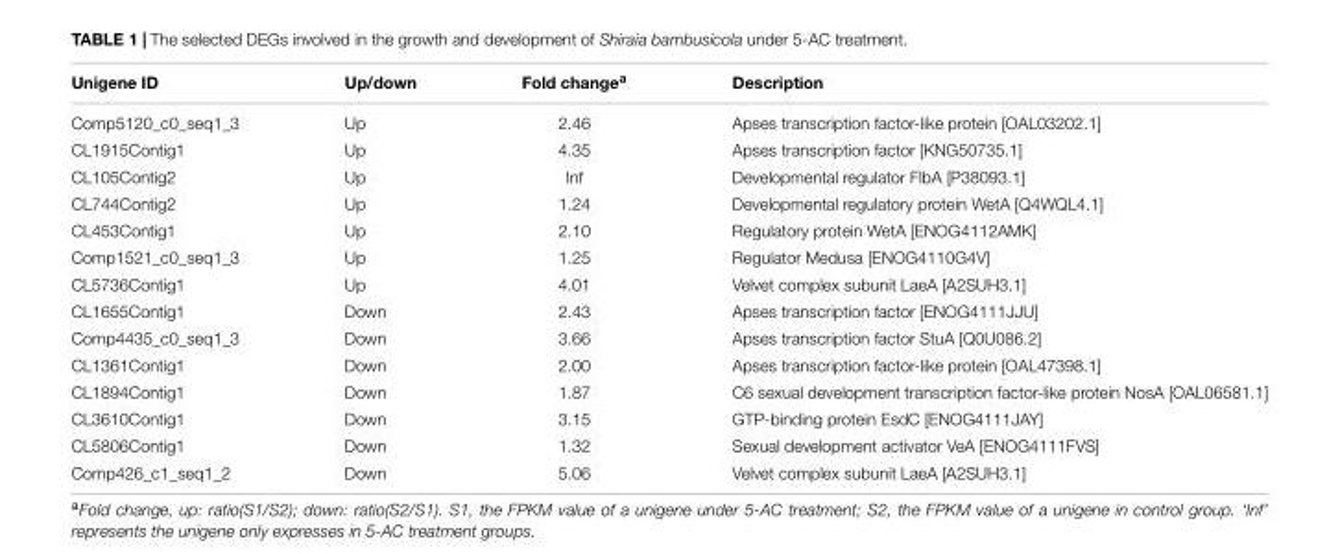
<table><thead><tr><td>Unigene ID</td><td>Up/down</td><td>Fold change<sup>a</sup></td><td>Description</td></tr></thead><tbody><tr><td>Comp5120_c0_seq1_3</td><td>Up</td><td>2.46</td><td>Apses transcription factor-like protein [OAL03202.1]</td></tr><tr><td>CL1915Contig1</td><td>Up</td><td>4.35</td><td>Apses transcription factor [KNG50735.1]</td></tr><tr><td>CL105Contig2</td><td>Up</td><td>Inf</td><td>Developmental regulator FlbA [P38093.1]</td></tr><tr><td>CL744Contig2</td><td>Up</td><td>1.24</td><td>Developmental regulatory protein WetA [Q4WQL4.1]</td></tr><tr><td>CL453Contig1</td><td>Up</td><td>2.10</td><td>Regulatory protein WetA [ENOG4112AMK]</td></tr><tr><td>Comp1521_c0_seq1_3</td><td>Up</td><td>1.25</td><td>Regulator Medusa [ENOG4110G4V]</td></tr><tr><td>CL5736Contig1</td><td>Up</td><td>4.01</td><td>Velvet complex subunit LaeA [A2SUH3.1]</td></tr><tr><td>CL1655Contig1</td><td>Down</td><td>2.43</td><td>Apses transcription factor [ENOG4111JJU]</td></tr><tr><td>Comp4435_c0_seq1_3</td><td>Down</td><td>3.66</td><td>Apses transcription factor StuA [Q0U086.2]</td></tr><tr><td>CL1361Contig1</td><td>Down</td><td>2.00</td><td>Apses transcription factor-like protein [OAL47398.1]</td></tr><tr><td>CL1894Contig1</td><td>Down</td><td>1.87</td><td>C6 sexual development transcription factor-like protein NosA [OAL06581.1]</td></tr><tr><td>CL3610Contig1</td><td>Down</td><td>3.15</td><td>GTP-binding protein EsdC [ENOG4111JAY]</td></tr><tr><td>CL5806Contig1</td><td>Down</td><td>1.32</td><td>Sexual development activator VeA [ENOG4111FVS]</td></tr><tr><td>Comp426_c1_seq1_2</td><td>Down</td><td>5.06</td><td>Velvet complex subunit LaeA [A2SUH3.1]</td></tr></tbody></table>